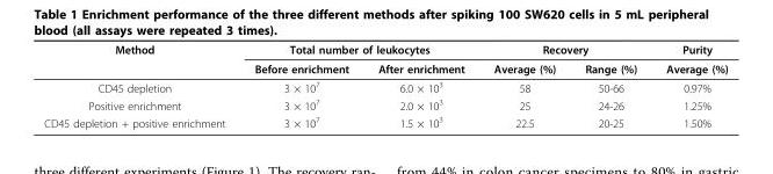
<table><thead><tr><td rowspan="2">Method</td><td colspan="2">Total number of leukocytes</td><td colspan="2">Recovery</td><td rowspan="2">Purity Average (%)</td></tr><tr><td>Before enrichment</td><td>After enrichment</td><td>Average (%)</td><td>Range (%)</td></tr></thead><tbody><tr><td>CD45 depletion</td><td>3 × 10<sup>7</sup></td><td>6.0 × 10<sup>3</sup></td><td>58</td><td>50-66</td><td>0.97%</td></tr><tr><td>Positive enrichment</td><td>3 × 10<sup>7</sup></td><td>2.0 × 10<sup>3</sup></td><td>25</td><td>24-26</td><td>1.25%</td></tr><tr><td>CD45 depletion + positive enrichment</td><td>3 × 10<sup>7</sup></td><td>1.5 × 10<sup>3</sup></td><td>22.5</td><td>20-25</td><td>1.50%</td></tr></tbody></table>